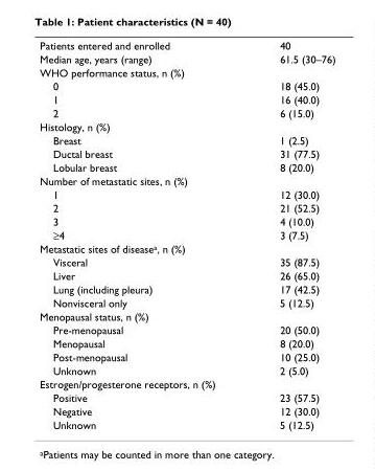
<table><tbody><tr><td>Patients entered and enrolled</td><td>40</td></tr><tr><td>Median age, years (range)</td><td>61.5 (30–76)</td></tr><tr><td colspan="2">WHO performance status, n (%)</td></tr><tr><td>0</td><td>18 (45.0)</td></tr><tr><td>1</td><td>16 (40.0)</td></tr><tr><td>2</td><td>6 (15.0)</td></tr><tr><td colspan="2">Histology, n (%)</td></tr><tr><td>Breast</td><td>1 (2.5)</td></tr><tr><td>Ductal breast</td><td>31 (77.5)</td></tr><tr><td>Lobular breast</td><td>8 (20.0)</td></tr><tr><td colspan="2">Number of metastatic sites, n (%)</td></tr><tr><td>1</td><td>12 (30.0)</td></tr><tr><td>2</td><td>21 (52.5)</td></tr><tr><td>3</td><td>4 (10.0)</td></tr><tr><td>≥4</td><td>3 (7.5)</td></tr><tr><td colspan="2">Metastatic sites of diseasea, n (%)</td></tr><tr><td>Visceral</td><td>35 (87.5)</td></tr><tr><td>Liver</td><td>26 (65.0)</td></tr><tr><td>Lung (including pleura)</td><td>17 (42.5)</td></tr><tr><td>Nonvisceral only</td><td>5 (12.5)</td></tr><tr><td colspan="2">Menopausal status, n (%)</td></tr><tr><td>Pre-menopausal</td><td>20 (50.0)</td></tr><tr><td>Menopausal</td><td>8 (20.0)</td></tr><tr><td>Post-menopausal</td><td>10 (25.0)</td></tr><tr><td>Unknown</td><td>2 (5.0)</td></tr><tr><td colspan="2">Estrogen/progesterone receptors, n (%)</td></tr><tr><td>Positive</td><td>23 (57.5)</td></tr><tr><td>Negative</td><td>12 (30.0)</td></tr><tr><td>Unknown</td><td>5 (12.5)</td></tr></tbody></table>